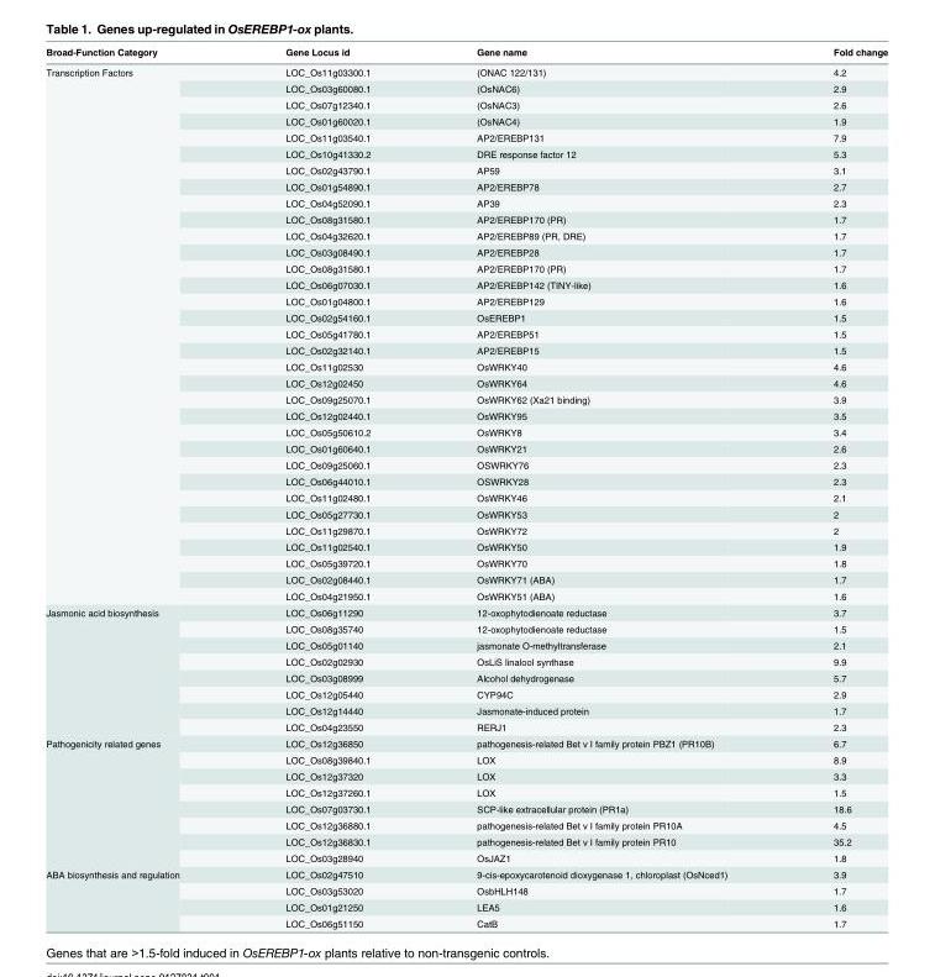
<table><thead><tr><td>Broad-Function Category</td><td>Gene Locus id</td><td>Gene name</td><td>Fold change</td></tr></thead><tbody><tr><td rowspan="33">Transcription Factors</td><td>LOC_Os11g03300.1</td><td>(ONAC 122/131)</td><td>4.2</td></tr><tr><td>LOC_Os03g60080.1</td><td>(OsNAC6)</td><td>2.9</td></tr><tr><td>LOC_Os07g12340.1</td><td>(OsNAC3)</td><td>2.6</td></tr><tr><td>LOC_Os01g60020.1</td><td>(OsNAC4)</td><td>1.9</td></tr><tr><td>LOC_Os11g03540.1</td><td>AP2/EREBP131</td><td>7.9</td></tr><tr><td>LOC_Os10g41330.2</td><td>DRE response factor 12</td><td>5.3</td></tr><tr><td>LOC_Os02g43790.1</td><td>AP59</td><td>3.1</td></tr><tr><td>LOC_Os01g54890.1</td><td>AP2/EREBP78</td><td>2.7</td></tr><tr><td>LOC_Os04g52090.1</td><td>AP39</td><td>2.3</td></tr><tr><td>LOC_Os08g31580.1</td><td>AP2/EREBP170 (PR)</td><td>1.7</td></tr><tr><td>LOC_Os04g32620.1</td><td>AP2/EREBP89 (PR, DRE)</td><td>1.7</td></tr><tr><td>LOC_Os03g08490.1</td><td>AP2/EREBP28</td><td>1.7</td></tr><tr><td>LOC_Os08g31580.1</td><td>AP2/EREBP170 (PR)</td><td>1.7</td></tr><tr><td>LOC_Os06g07030.1</td><td>AP2/EREBP142 (TINY-like)</td><td>1.6</td></tr><tr><td>LOC_Os01g04800.1</td><td>AP2/EREBP129</td><td>1.6</td></tr><tr><td>LOC_Os02g54160.1</td><td>OsEREBP1</td><td>1.5</td></tr><tr><td>LOC_Os05g41780.1</td><td>AP2/EREBP51</td><td>1.5</td></tr><tr><td>LOC_Os02g32140.1</td><td>AP2/EREBP15</td><td>1.5</td></tr><tr><td>LOC_Os11g02530</td><td>OsWRKY40</td><td>4.6</td></tr><tr><td>LOC_Os12g02450</td><td>OsWRKY64</td><td>4.6</td></tr><tr><td>LOC_Os09g25070.1</td><td>OsWRKY62 (Xa21 binding)</td><td>3.9</td></tr><tr><td>LOC_Os12g02440.1</td><td>OsWRKY95</td><td>3.5</td></tr><tr><td>LOC_Os05g50610.2</td><td>OsWRKY8</td><td>3.4</td></tr><tr><td>LOC_Os01g60640.1</td><td>OsWRKY21</td><td>2.6</td></tr><tr><td>LOC_Os09g25060.1</td><td>OSWRKY76</td><td>2.3</td></tr><tr><td>LOC_Os06g44010.1</td><td>OSWRKY28</td><td>2.3</td></tr><tr><td>LOC_Os11g02480.1</td><td>OsWRKY46</td><td>2.1</td></tr><tr><td>LOC_Os05g27730.1</td><td>OsWRKY53</td><td>2</td></tr><tr><td>LOC_Os11g29870.1</td><td>OsWRKY72</td><td>2</td></tr><tr><td>LOC_Os11g02540.1</td><td>OsWRKY50</td><td>1.9</td></tr><tr><td>LOC_Os05g39720.1</td><td>OsWRKY70</td><td>1.8</td></tr><tr><td>LOC_Os02g08440.1</td><td>OsWRKY71 (ABA)</td><td>1.7</td></tr><tr><td>LOC_Os04g21950.1</td><td>OsWRKY51 (ABA)</td><td>1.6</td></tr><tr><td rowspan="8">Jasmonic acid biosynthesis</td><td>LOC_Os06g11290</td><td>12-oxophytodienoate reductase</td><td>3.7</td></tr><tr><td>LOC_Os08g35740</td><td>12-oxophytodienoate reductase</td><td>1.5</td></tr><tr><td>LOC_Os05g01140</td><td>jasmonate O-methyltransferase</td><td>2.1</td></tr><tr><td>LOC_Os02g02930</td><td>OsLiS linalool synthase</td><td>9.9</td></tr><tr><td>LOC_Os03g08999</td><td>Alcohol dehydrogenase</td><td>5.7</td></tr><tr><td>LOC_Os12g05440</td><td>CYP94C</td><td>2.9</td></tr><tr><td>LOC_Os12g14440</td><td>Jasmonate-induced protein</td><td>1.7</td></tr><tr><td>LOC_Os04g23550</td><td>RERJ1</td><td>2.3</td></tr><tr><td rowspan="8">Pathogenicity related genes</td><td>LOC_Os12g36850</td><td>pathogenesis-related Bet v I family protein PBZ1 (PR10B)</td><td>6.7</td></tr><tr><td>LOC_Os08g39840.1</td><td>LOX</td><td>8.9</td></tr><tr><td>LOC_Os12g37320</td><td>LOX</td><td>3.3</td></tr><tr><td>LOC_Os12g37260.1</td><td>LOX</td><td>1.5</td></tr><tr><td>LOC_Os07g03730.1</td><td>SCP-like extracellular protein (PR1a)</td><td>18.6</td></tr><tr><td>LOC_Os12g36880.1</td><td>pathogenesis-related Bet v I family protein PR10A</td><td>4.5</td></tr><tr><td>LOC_Os12g36830.1</td><td>pathogenesis-related Bet v I family protein PR10</td><td>35.2</td></tr><tr><td>LOC_Os03g28940</td><td>OsJAZ1</td><td>1.8</td></tr><tr><td rowspan="4">ABA biosynthesis and regulation</td><td>LOC_Os02g47510</td><td>9-cis-epoxycarotenoid dioxygenase 1, chloroplast (OsNced1)</td><td>3.9</td></tr><tr><td>LOC_Os03g53020</td><td>OsbHLH148</td><td>1.7</td></tr><tr><td>LOC_Os01g21250</td><td>LEA5</td><td>1.6</td></tr><tr><td>LOC_Os06g51150</td><td>CatB</td><td>1.7</td></tr></tbody></table>